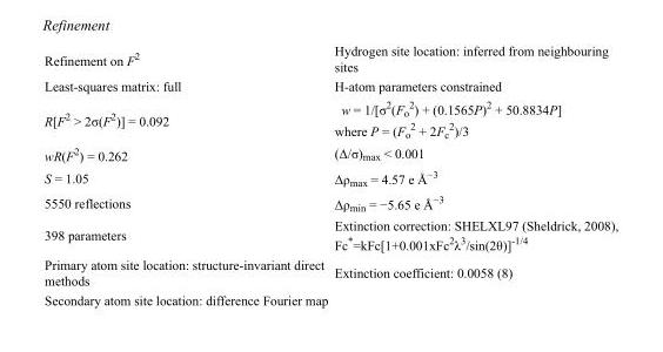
<table><tbody><tr><td>Refinement on F<sup>2</sup></td><td>Hydrogen site location: inferred from neighbouring sites</td></tr><tr><td>Least-squares matrix: full</td><td>H-atom parameters constrained</td></tr><tr><td>R[F<sup>2</sup> &gt; 2σ(F<sup>2</sup>)] = 0.092</td><td>w = 1/[σ<sup>2</sup>(F<sub>o</sub> <sup>2</sup>) + (0.1565P)<sup>2</sup> + 50.8834P] where P = (F<sub>o</sub> <sup>2</sup> + 2F<sub>c</sub> <sup>2</sup>)/3</td></tr><tr><td>wR(F<sup>2</sup>) = 0.262</td><td>(Δ/σ)<sub>max</sub> &lt; 0.001</td></tr><tr><td>S = 1.05</td><td>Δρ<sub>max</sub> = 4.57 e Å<sup>−3</sup></td></tr><tr><td>5550 reflections</td><td>Δρ<sub>min</sub> = −5.65 e Å<sup>−3</sup></td></tr><tr><td>398 parameters</td><td>Extinction correction: SHELXL97 (Sheldrick, 2008), Fc*=kFc[1+0.001xFc<sup>2</sup>λ<sup>3</sup>/sin(2θ)]<sup>-1/4</sup></td></tr><tr><td>Primary atom site location: structure-invariant direct methods</td><td>Extinction coefficient: 0.0058 (8)</td></tr><tr><td>Secondary atom site location: difference Fourier map</td><td></td></tr></tbody></table>